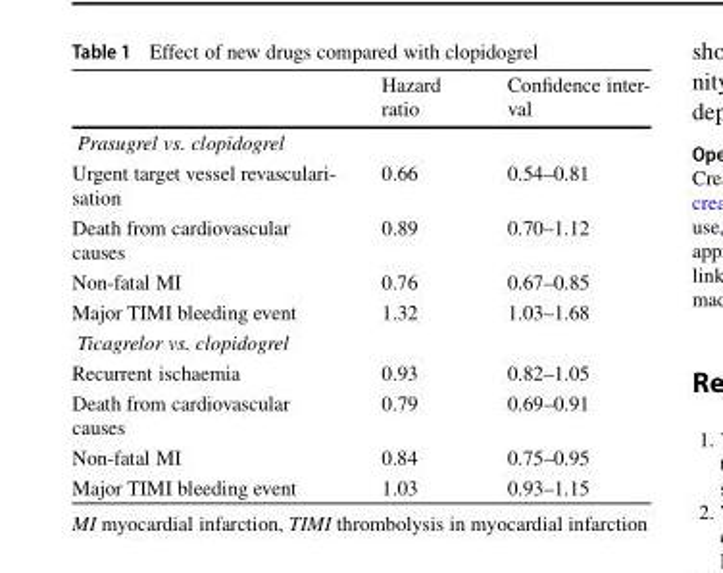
<table><thead><tr><td></td><td>Hazard ratio</td><td>Confidence inter- val</td></tr></thead><tbody><tr><td colspan="3">Prasugrel vs. clopidogrel</td></tr><tr><td>Urgent target vessel revasculari- sation</td><td>0.66</td><td>0.54–0.81</td></tr><tr><td>Death from cardiovascular causes</td><td>0.89</td><td>0.70–1.12</td></tr><tr><td>Non-fatal MI</td><td>0.76</td><td>0.67–0.85</td></tr><tr><td>Major TIMI bleeding event</td><td>1.32</td><td>1.03–1.68</td></tr><tr><td colspan="3">Ticagrelor vs. clopidogrel</td></tr><tr><td>Recurrent ischaemia</td><td>0.93</td><td>0.82–1.05</td></tr><tr><td>Death from cardiovascular causes</td><td>0.79</td><td>0.69–0.91</td></tr><tr><td>Non-fatal MI</td><td>0.84</td><td>0.75–0.95</td></tr><tr><td>Major TIMI bleeding event</td><td>1.03</td><td>0.93–1.15</td></tr></tbody></table>